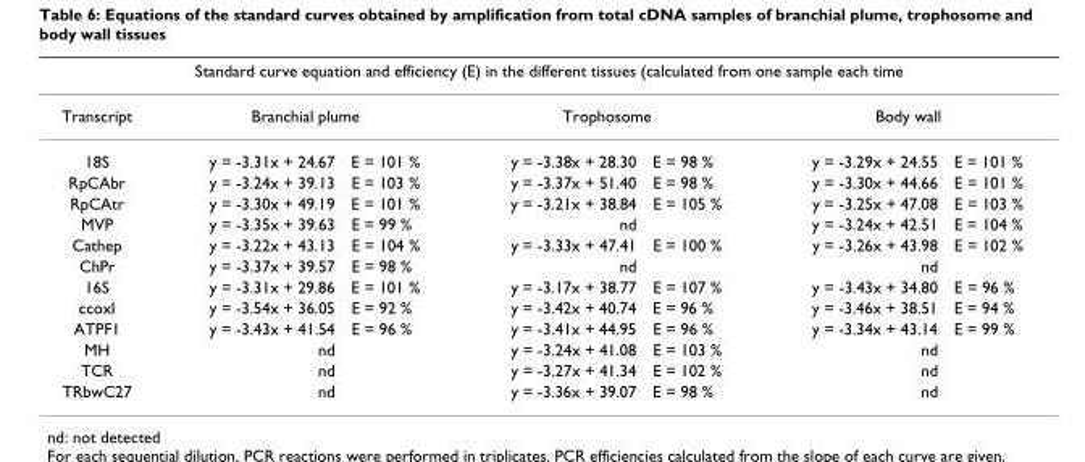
<table><thead><tr><td colspan="7">Standard curve equation and efficiency (E) in the different tissues (calculated from one sample each time</td></tr><tr><td rowspan="2">Transcript 18S</td><td colspan="2">Branchial plume</td><td colspan="2">Trophosome</td><td colspan="2">Body wall</td></tr><tr><td>y = -3.31x + 24.67</td><td>E = 101 %</td><td>y = -3.38x + 28.30</td><td>E = 98 %</td><td>y = -3.29x + 24.55</td><td>E = 101 %</td></tr></thead><tbody><tr><td>RpCAbr</td><td>y = -3.24x + 39.13</td><td>E = 103 %</td><td>y = -3.37x + 51.40</td><td>E = 98 %</td><td>y = -3.30x + 44.66</td><td>E = 101 %</td></tr><tr><td>RpCAtr</td><td>y = -3.30x + 49.19</td><td>E = 101 %</td><td>y = -3.21x + 38.84</td><td>E = 105 %</td><td>y = -3.25x + 47.08</td><td>E = 103 %</td></tr><tr><td>MVP</td><td>y = -3.35x + 39.63</td><td>E = 99 %</td><td>nd</td><td></td><td>y = -3.24x + 42.51</td><td>E = 104 %</td></tr><tr><td>Cathep</td><td>y = -3.22x + 43.13</td><td>E = 104 %</td><td>y = -3.33x + 47.41</td><td>E = 100 %</td><td>y = -3.26x + 43.98</td><td>E = 102 %</td></tr><tr><td>ChPr</td><td>y = -3.37x + 39.57</td><td>E = 98 %</td><td>nd</td><td></td><td>nd</td><td></td></tr><tr><td>16S</td><td>y = -3.31x + 29.86</td><td>E = 101 %</td><td>y = -3.17x + 38.77</td><td>E = 107 %</td><td>y = -3.43x + 34.80</td><td>E = 96 %</td></tr><tr><td>ccoxI</td><td>y = -3.54x + 36.05</td><td>E = 92 %</td><td>y = -3.42x + 40.74</td><td>E = 96 %</td><td>y = -3.46x + 38.51</td><td>E = 94 %</td></tr><tr><td>ATPF1</td><td>y = -3.43x + 41.54</td><td>E = 96 %</td><td>y = -3.41x + 44.95</td><td>E = 96 %</td><td>y = -3.34x + 43.14</td><td>E = 99 %</td></tr><tr><td>MH</td><td>nd</td><td></td><td>y = -3.24x + 41.08</td><td>E = 103 %</td><td>nd</td><td></td></tr><tr><td>TCR</td><td>nd</td><td></td><td>y = -3.27x + 41.34</td><td>E = 102 %</td><td>nd</td><td></td></tr><tr><td>TRbwC27</td><td>nd</td><td></td><td>y = -3.36x + 39.07</td><td>E = 98 %</td><td>nd</td><td></td></tr></tbody></table>